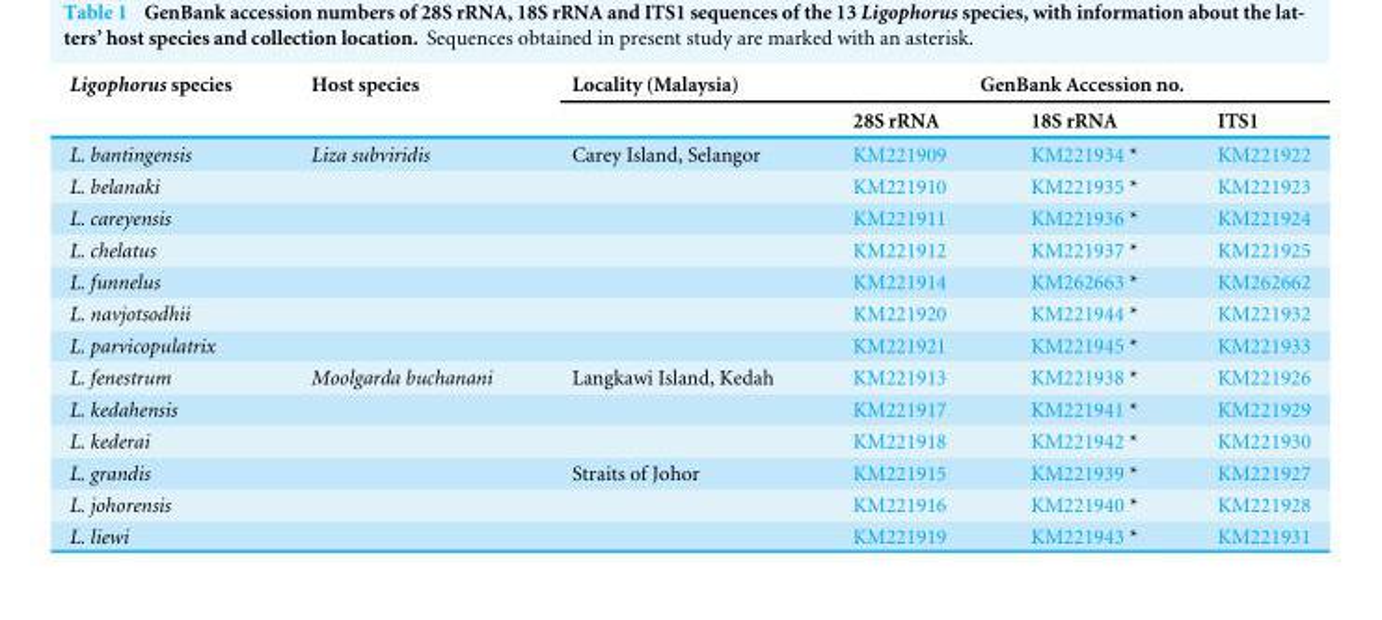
<table><thead><tr><td rowspan="2">Ligophorus species</td><td rowspan="2">Host species</td><td rowspan="2">Locality (Malaysia)</td><td colspan="3">GenBank Accession no.</td></tr><tr><td>28S rRNA</td><td>18S rRNA</td><td>ITS1</td></tr></thead><tbody><tr><td>L. bantingensis</td><td>Liza subviridis</td><td>Carey Island, Selangor</td><td>KM221909</td><td>KM221934 *</td><td>KM221922</td></tr><tr><td>L. belanaki</td><td></td><td></td><td>KM221910</td><td>KM221935 *</td><td>KM221923</td></tr><tr><td>L. careyensis</td><td></td><td></td><td>KM221911</td><td>KM221936 *</td><td>KM221924</td></tr><tr><td>L. chelatus</td><td></td><td></td><td>KM221912</td><td>KM221937 *</td><td>KM221925</td></tr><tr><td>L. funnelus</td><td></td><td></td><td>KM221914</td><td>KM262663 *</td><td>KM262662</td></tr><tr><td>L. navjotsodhii</td><td></td><td></td><td>KM221920</td><td>KM221944 *</td><td>KM221932</td></tr><tr><td>L. parvicopulatrix</td><td></td><td></td><td>KM221921</td><td>KM221945 *</td><td>KM221933</td></tr><tr><td>L. fenestrum</td><td>Moolgarda buchanani</td><td>Langkawi Island, Kedah</td><td>KM221913</td><td>KM221938 *</td><td>KM221926</td></tr><tr><td>L. kedahensis</td><td></td><td></td><td>KM221917</td><td>KM221941 *</td><td>KM221929</td></tr><tr><td>L. kederai</td><td></td><td></td><td>KM221918</td><td>KM221942 *</td><td>KM221930</td></tr><tr><td>L. grandis</td><td></td><td>Straits of Johor</td><td>KM221915</td><td>KM221939 *</td><td>KM221927</td></tr><tr><td>L. johorensis</td><td></td><td></td><td>KM221916</td><td>KM221940 *</td><td>KM221928</td></tr><tr><td>L. liewi</td><td></td><td></td><td>KM221919</td><td>KM221943 *</td><td>KM221931</td></tr></tbody></table>